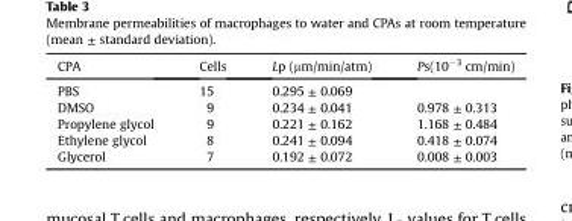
<table><thead><tr><td>CPA</td><td>Cells</td><td>Lp (μm/min/atm)</td><td>Ps(10<sup>−3</sup> cm/min)</td></tr></thead><tbody><tr><td>PBS</td><td>15</td><td>0.295 ± 0.069</td><td></td></tr><tr><td>DMSO</td><td>9</td><td>0.234 ± 0.041</td><td>0.978 ± 0.313</td></tr><tr><td>Propylene glycol</td><td>9</td><td>0.221 ± 0.162</td><td>1.168 ± 0.484</td></tr><tr><td>Ethylene glycol</td><td>8</td><td>0.241 ± 0.094</td><td>0.418 ± 0.074</td></tr><tr><td>Glycerol</td><td>7</td><td>0.192 ± 0.072</td><td>0.008 ± 0.003</td></tr></tbody></table>